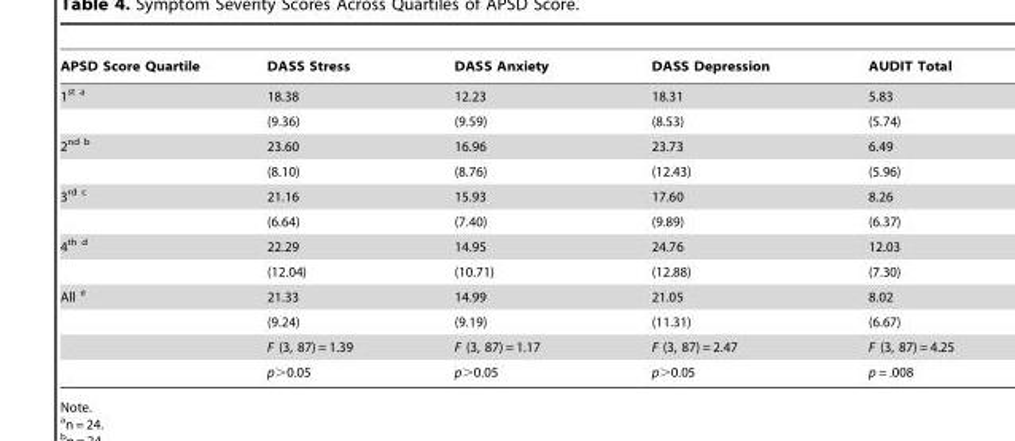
<table><thead><tr><td>APSD Score Quartile</td><td>DASS Stress</td><td>DASS Anxiety</td><td>DASS Depression</td><td>AUDIT Total</td></tr></thead><tbody><tr><td rowspan="2">1<sup>st</sup> a</td><td>18.38</td><td>12.23</td><td>18.31</td><td>5.83</td></tr><tr><td>(9.36)</td><td>(9.59)</td><td>(8.53)</td><td>(5.74)</td></tr><tr><td rowspan="2">2<sup>nd</sup> b</td><td>23.60</td><td>16.96</td><td>23.73</td><td>6.49</td></tr><tr><td>(8.10)</td><td>(8.76)</td><td>(12.43)</td><td>(5.96)</td></tr><tr><td rowspan="2">3<sup>rd</sup> c</td><td>21.16</td><td>15.93</td><td>17.60</td><td>8.26</td></tr><tr><td>(6.64)</td><td>(7.40)</td><td>(9.89)</td><td>(6.37)</td></tr><tr><td rowspan="2">4<sup>th</sup> d</td><td>22.29</td><td>14.95</td><td>24.76</td><td>12.03</td></tr><tr><td>(12.04)</td><td>(10.71)</td><td>(12.88)</td><td>(7.30)</td></tr><tr><td rowspan="4">All e</td><td>21.33</td><td>14.99</td><td>21.05</td><td>8.02</td></tr><tr><td>(9.24)</td><td>(9.19)</td><td>(11.31)</td><td>(6.67)</td></tr><tr><td>F (3, 87) = 1.39</td><td>F (3, 87) = 1.17</td><td>F (3, 87) = 2.47</td><td>F (3, 87) = 4.25</td></tr><tr><td>p&gt;0.05</td><td>p&gt;0.05</td><td>p&gt;0.05</td><td>p = .008</td></tr></tbody></table>